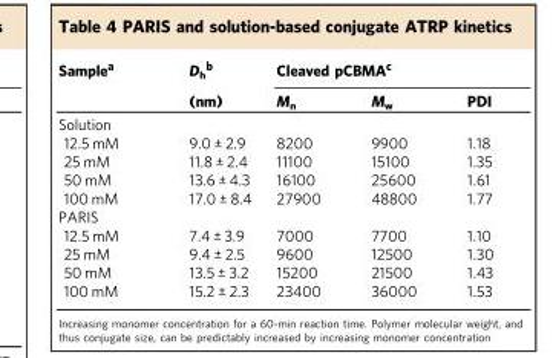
<table><thead><tr><td rowspan="2">Sample<sup>a</sup></td><td rowspan="2">D<sub>h</sub><sup>b</sup> (nm)</td><td colspan="3">Cleaved pCBMA<sup>c</sup></td></tr><tr><td>M<sub>n</sub></td><td>M<sub>w</sub></td><td>PDI</td></tr></thead><tbody><tr><td colspan="5">Solution</td></tr><tr><td>12.5 mM</td><td>9.0 ± 2.9</td><td>8200</td><td>9900</td><td>1.18</td></tr><tr><td>25 mM</td><td>11.8 ± 2.4</td><td>11100</td><td>15100</td><td>1.35</td></tr><tr><td>50 mM</td><td>13.6 ± 4.3</td><td>16100</td><td>25600</td><td>1.61</td></tr><tr><td>100 mM</td><td>17.0 ± 8.4</td><td>27900</td><td>48800</td><td>1.77</td></tr><tr><td colspan="5">PARIS</td></tr><tr><td>12.5 mM</td><td>7.4 ± 3.9</td><td>7000</td><td>7700</td><td>1.10</td></tr><tr><td>25 mM</td><td>9.4 ± 2.5</td><td>9600</td><td>12500</td><td>1.30</td></tr><tr><td>50 mM</td><td>13.5 ± 3.2</td><td>15200</td><td>21500</td><td>1.43</td></tr><tr><td>100 mM</td><td>15.2 ± 2.3</td><td>23400</td><td>36000</td><td>1.53</td></tr></tbody></table>